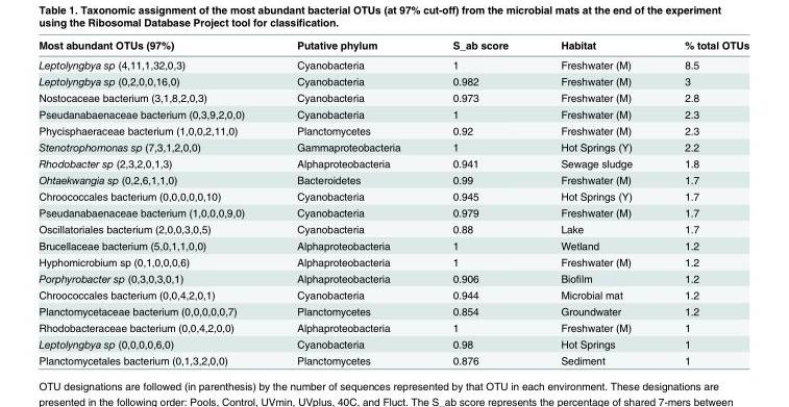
<table><thead><tr><td>Most abundant OTUs (97%)</td><td>Putative phylum</td><td>S_ab score</td><td>Habitat</td><td>% total OTUs</td></tr></thead><tbody><tr><td>Leptolyngbya sp (4,11,1,32,0,3)</td><td>Cyanobacteria</td><td>1</td><td>Freshwater (M)</td><td>8.5</td></tr><tr><td>Leptolyngbya sp (0,2,0,0,16,0)</td><td>Cyanobacteria</td><td>0.982</td><td>Freshwater (M)</td><td>3</td></tr><tr><td>Nostocaceae bacterium (3,1,8,2,0,3)</td><td>Cyanobacteria</td><td>0.973</td><td>Freshwater (M)</td><td>2.8</td></tr><tr><td>Pseudanabaenaceae bacterium (0,3,9,2,0,0)</td><td>Cyanobacteria</td><td>1</td><td>Freshwater (M)</td><td>2.3</td></tr><tr><td>Phycisphaeraceae bacterium (1,0,0,2,11,0)</td><td>Planctomycetes</td><td>0.92</td><td>Freshwater (M)</td><td>2.3</td></tr><tr><td>Stenotrophomonas sp (7,3,1,2,0,0)</td><td>Gammaproteobacteria</td><td>1</td><td>Hot Springs (Y)</td><td>2.2</td></tr><tr><td>Rhodobacter sp (2,3,2,0,1,3)</td><td>Alphaproteobacteria</td><td>0.941</td><td>Sewage sludge</td><td>1.8</td></tr><tr><td>Ohtaekwangia sp (0,2,6,1,1,0)</td><td>Bacteroidetes</td><td>0.99</td><td>Freshwater (M)</td><td>1.7</td></tr><tr><td>Chroococcales bacterium (0,0,0,0,0,10)</td><td>Cyanobacteria</td><td>0.945</td><td>Hot Springs (Y)</td><td>1.7</td></tr><tr><td>Pseudanabaenaceae bacterium (1,0,0,0,9,0)</td><td>Cyanobacteria</td><td>0.979</td><td>Freshwater (M)</td><td>1.7</td></tr><tr><td>Oscillatoriales bacterium (2,0,0,3,0,5)</td><td>Cyanobacteria</td><td>0.88</td><td>Lake</td><td>1.7</td></tr><tr><td>Brucellaceae bacterium (5,0,1,1,0,0)</td><td>Alphaproteobacteria</td><td>1</td><td>Wetland</td><td>1.2</td></tr><tr><td>Hyphomicrobium sp (0,1,0,0,0,6)</td><td>Alphaproteobacteria</td><td>1</td><td>Freshwater (M)</td><td>1.2</td></tr><tr><td>Porphyrobacter sp (0,3,0,3,0,1)</td><td>Alphaproteobacteria</td><td>0.906</td><td>Biofilm</td><td>1.2</td></tr><tr><td>Chroococcales bacterium (0,0,4,2,0,1)</td><td>Cyanobacteria</td><td>0.944</td><td>Microbial mat</td><td>1.2</td></tr><tr><td>Planctomycetaceae bacterium (0,0,0,0,0,7)</td><td>Planctomycetes</td><td>0.854</td><td>Groundwater</td><td>1.2</td></tr><tr><td>Rhodobacteraceae bacterium (0,0,4,2,0,0)</td><td>Alphaproteobacteria</td><td>1</td><td>Freshwater (M)</td><td>1</td></tr><tr><td>Leptolyngbya sp (0,0,0,0,6,0)</td><td>Cyanobacteria</td><td>0.98</td><td>Hot Springs</td><td>1</td></tr><tr><td>Planctomycetales bacterium (0,1,3,2,0,0)</td><td>Planctomycetes</td><td>0.876</td><td>Sediment</td><td>1</td></tr></tbody></table>